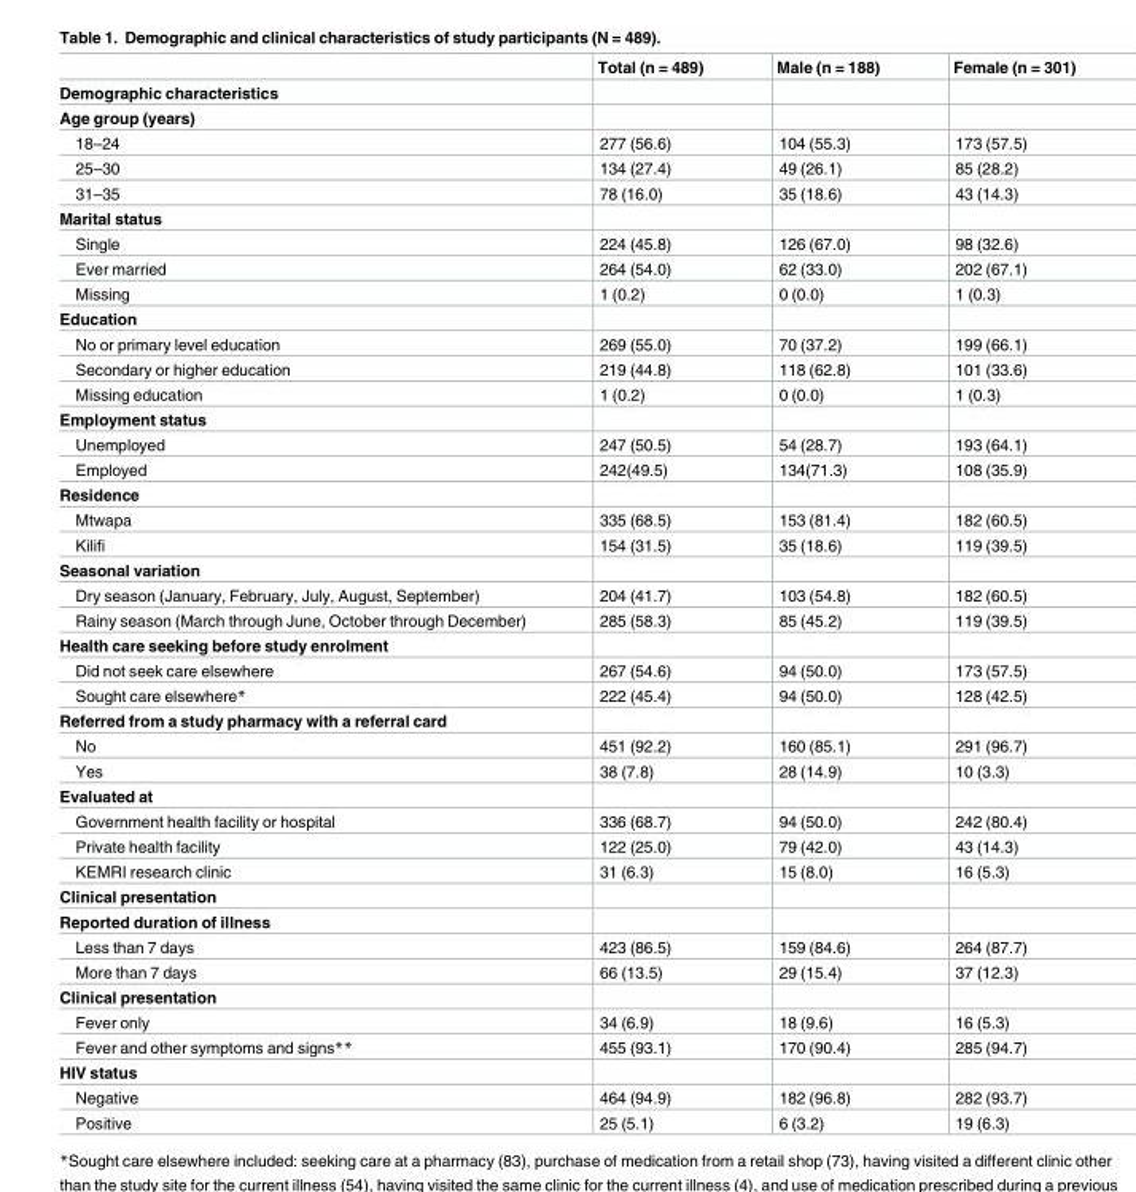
<table><thead><tr><td></td><td>Total (n = 489)</td><td>Male (n = 188)</td><td>Female (n = 301)</td></tr></thead><tbody><tr><td colspan="4">Demographic characteristics</td></tr><tr><td colspan="4">Age group (years)</td></tr><tr><td>18–24</td><td>277 (56.6)</td><td>104 (55.3)</td><td>173 (57.5)</td></tr><tr><td>25–30</td><td>134 (27.4)</td><td>49 (26.1)</td><td>85 (28.2)</td></tr><tr><td>31–35</td><td>78 (16.0)</td><td>35 (18.6)</td><td>43 (14.3)</td></tr><tr><td colspan="4">Marital status</td></tr><tr><td>Single</td><td>224 (45.8)</td><td>126 (67.0)</td><td>98 (32.6)</td></tr><tr><td>Ever married</td><td>264 (54.0)</td><td>62 (33.0)</td><td>202 (67.1)</td></tr><tr><td>Missing</td><td>1 (0.2)</td><td>0 (0.0)</td><td>1 (0.3)</td></tr><tr><td colspan="4">Education</td></tr><tr><td>No or primary level education</td><td>269 (55.0)</td><td>70 (37.2)</td><td>199 (66.1)</td></tr><tr><td>Secondary or higher education</td><td>219 (44.8)</td><td>118 (62.8)</td><td>101 (33.6)</td></tr><tr><td>Missing education</td><td>1 (0.2)</td><td>0 (0.0)</td><td>1 (0.3)</td></tr><tr><td colspan="4">Employment status</td></tr><tr><td>Unemployed</td><td>247 (50.5)</td><td>54 (28.7)</td><td>193 (64.1)</td></tr><tr><td>Employed</td><td>242(49.5)</td><td>134(71.3)</td><td>108 (35.9)</td></tr><tr><td colspan="4">Residence</td></tr><tr><td>Mtwapa</td><td>335 (68.5)</td><td>153 (81.4)</td><td>182 (60.5)</td></tr><tr><td>Kilifi</td><td>154 (31.5)</td><td>35 (18.6)</td><td>119 (39.5)</td></tr><tr><td colspan="4">Seasonal variation</td></tr><tr><td>Dry season (January, February, July, August, September)</td><td>204 (41.7)</td><td>103 (54.8)</td><td>182 (60.5)</td></tr><tr><td>Rainy season (March through June, October through December)</td><td>285 (58.3)</td><td>85 (45.2)</td><td>119 (39.5)</td></tr><tr><td colspan="4">Health care seeking before study enrolment</td></tr><tr><td>Did not seek care elsewhere</td><td>267 (54.6)</td><td>94 (50.0)</td><td>173 (57.5)</td></tr><tr><td>Sought care elsewhere*</td><td>222 (45.4)</td><td>94 (50.0)</td><td>128 (42.5)</td></tr><tr><td colspan="4">Referred from a study pharmacy with a referral card</td></tr><tr><td>No</td><td>451 (92.2)</td><td>160 (85.1)</td><td>291 (96.7)</td></tr><tr><td>Yes</td><td>38 (7.8)</td><td>28 (14.9)</td><td>10 (3.3)</td></tr><tr><td colspan="4">Evaluated at</td></tr><tr><td>Government health facility or hospital</td><td>336 (68.7)</td><td>94 (50.0)</td><td>242 (80.4)</td></tr><tr><td>Private health facility</td><td>122 (25.0)</td><td>79 (42.0)</td><td>43 (14.3)</td></tr><tr><td>KEMRI research clinic</td><td>31 (6.3)</td><td>15 (8.0)</td><td>16 (5.3)</td></tr><tr><td colspan="4">Clinical presentation</td></tr><tr><td colspan="4">Reported duration of illness</td></tr><tr><td>Less than 7 days</td><td>423 (86.5)</td><td>159 (84.6)</td><td>264 (87.7)</td></tr><tr><td>More than 7 days</td><td>66 (13.5)</td><td>29 (15.4)</td><td>37 (12.3)</td></tr><tr><td colspan="4">Clinical presentation</td></tr><tr><td>Fever only</td><td>34 (6.9)</td><td>18 (9.6)</td><td>16 (5.3)</td></tr><tr><td>Fever and other symptoms and signs**</td><td>455 (93.1)</td><td>170 (90.4)</td><td>285 (94.7)</td></tr><tr><td colspan="4">HIV status</td></tr><tr><td>Negative</td><td>464 (94.9)</td><td>182 (96.8)</td><td>282 (93.7)</td></tr><tr><td>Positive</td><td>25 (5.1)</td><td>6 (3.2)</td><td>19 (6.3)</td></tr></tbody></table>